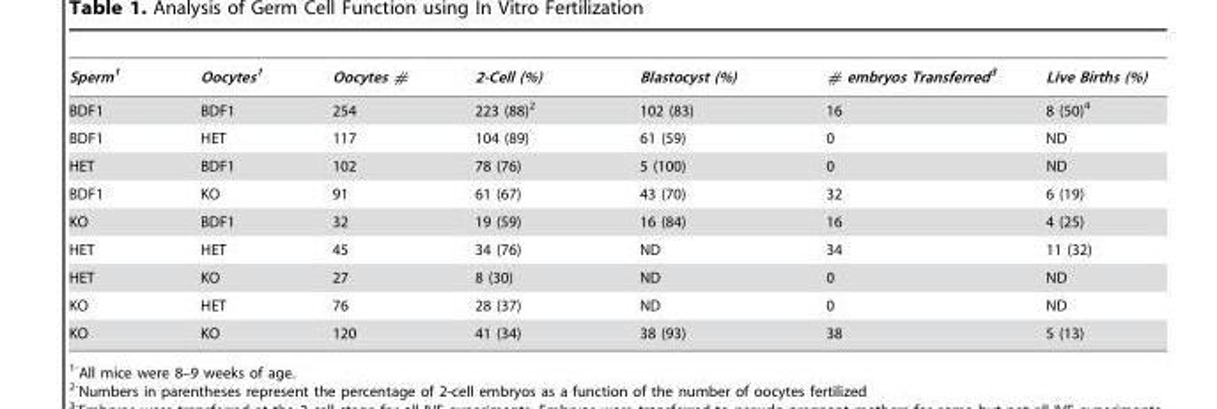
<table><thead><tr><td>Sperm1</td><td>Oocytes1</td><td>Oocytes #</td><td>2-Cell (%)</td><td>Blastocyst (%)</td><td># embryos Transferred3</td><td>Live Births (%)</td></tr></thead><tbody><tr><td>BDF1</td><td>BDF1</td><td>254</td><td>223 (88)<sup>2</sup></td><td>102 (83)</td><td>16</td><td>8 (50)<sup>4</sup></td></tr><tr><td>BDF1</td><td>HET</td><td>117</td><td>104 (89)</td><td>61 (59)</td><td>0</td><td>ND</td></tr><tr><td>HET</td><td>BDF1</td><td>102</td><td>78 (76)</td><td>5 (100)</td><td>0</td><td>ND</td></tr><tr><td>BDF1</td><td>KO</td><td>91</td><td>61 (67)</td><td>43 (70)</td><td>32</td><td>6 (19)</td></tr><tr><td>KO</td><td>BDF1</td><td>32</td><td>19 (59)</td><td>16 (84)</td><td>16</td><td>4 (25)</td></tr><tr><td>HET</td><td>HET</td><td>45</td><td>34 (76)</td><td>ND</td><td>34</td><td>11 (32)</td></tr><tr><td>HET</td><td>KO</td><td>27</td><td>8 (30)</td><td>ND</td><td>0</td><td>ND</td></tr><tr><td>KO</td><td>HET</td><td>76</td><td>28 (37)</td><td>ND</td><td>0</td><td>ND</td></tr><tr><td>KO</td><td>KO</td><td>120</td><td>41 (34)</td><td>38 (93)</td><td>38</td><td>5 (13)</td></tr></tbody></table>